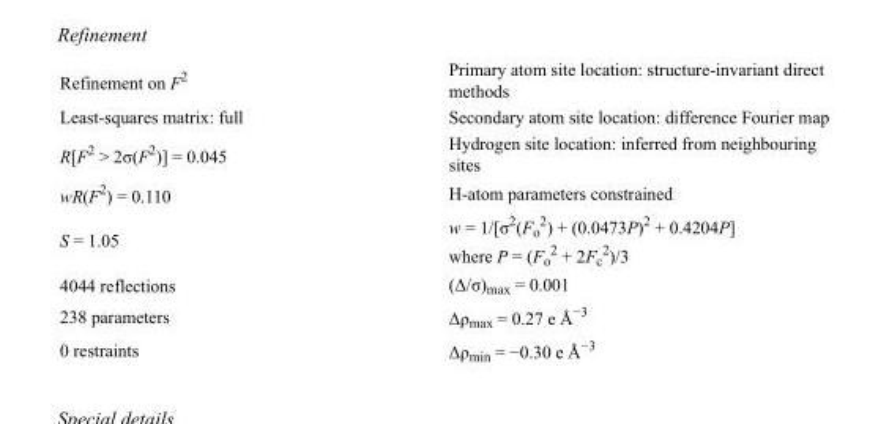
<table><tbody><tr><td>Refinement on F<sup>2</sup></td><td>Primary atom site location: structure-invariant direct methods</td></tr><tr><td>Least-squares matrix: full</td><td>Secondary atom site location: difference Fourier map</td></tr><tr><td>R[F<sup>2</sup> &gt; 2σ(F<sup>2</sup>)] = 0.045</td><td>Hydrogen site location: inferred from neighbouring sites</td></tr><tr><td>wR(F<sup>2</sup>) = 0.110</td><td>H-atom parameters constrained</td></tr><tr><td>S = 1.05</td><td>w = 1/[σ<sup>2</sup>(F<sub>o</sub> <sup>2</sup>) + (0.0473P)<sup>2</sup> + 0.4204P] where P = (F<sub>o</sub> <sup>2</sup> + 2F<sub>c</sub> <sup>2</sup>)/3</td></tr><tr><td>4044 reflections</td><td>(Δ/σ)<sub>max</sub> = 0.001</td></tr><tr><td>238 parameters</td><td>Δρ<sub>max</sub> = 0.27 e Å<sup>−3</sup></td></tr><tr><td>0 restraints</td><td>Δρ<sub>min</sub> = −0.30 e Å<sup>−3</sup></td></tr></tbody></table>